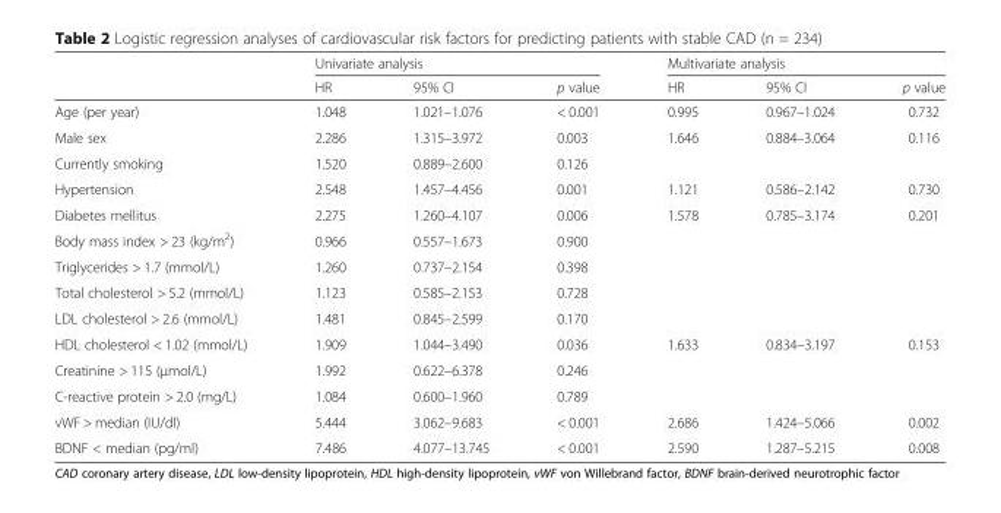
<table><thead><tr><td rowspan="2"></td><td colspan="3">Univariate analysis</td><td colspan="3">Multivariate analysis</td></tr><tr><td>HR</td><td>95% CI</td><td>p value</td><td>HR</td><td>95% CI</td><td>p value</td></tr></thead><tbody><tr><td>Age (per year)</td><td>1.048</td><td>1.021–1.076</td><td>&lt; 0.001</td><td>0.995</td><td>0.967–1.024</td><td>0.732</td></tr><tr><td>Male sex</td><td>2.286</td><td>1.315–3.972</td><td>0.003</td><td>1.646</td><td>0.884–3.064</td><td>0.116</td></tr><tr><td>Currently smoking</td><td>1.520</td><td>0.889–2.600</td><td>0.126</td><td></td><td></td><td></td></tr><tr><td>Hypertension</td><td>2.548</td><td>1.457–4.456</td><td>0.001</td><td>1.121</td><td>0.586–2.142</td><td>0.730</td></tr><tr><td>Diabetes mellitus</td><td>2.275</td><td>1.260–4.107</td><td>0.006</td><td>1.578</td><td>0.785–3.174</td><td>0.201</td></tr><tr><td>Body mass index &gt; 23 (kg/m<sup>2</sup>)</td><td>0.966</td><td>0.557–1.673</td><td>0.900</td><td></td><td></td><td></td></tr><tr><td>Triglycerides &gt; 1.7 (mmol/L)</td><td>1.260</td><td>0.737–2.154</td><td>0.398</td><td></td><td></td><td></td></tr><tr><td>Total cholesterol &gt; 5.2 (mmol/L)</td><td>1.123</td><td>0.585–2.153</td><td>0.728</td><td></td><td></td><td></td></tr><tr><td>LDL cholesterol &gt; 2.6 (mmol/L)</td><td>1.481</td><td>0.845–2.599</td><td>0.170</td><td></td><td></td><td></td></tr><tr><td>HDL cholesterol &lt; 1.02 (mmol/L)</td><td>1.909</td><td>1.044–3.490</td><td>0.036</td><td>1.633</td><td>0.834–3.197</td><td>0.153</td></tr><tr><td>Creatinine &gt; 115 (μmol/L)</td><td>1.992</td><td>0.622–6.378</td><td>0.246</td><td></td><td></td><td></td></tr><tr><td>C-reactive protein &gt; 2.0 (mg/L)</td><td>1.084</td><td>0.600–1.960</td><td>0.789</td><td></td><td></td><td></td></tr><tr><td>vWF &gt; median (IU/dl)</td><td>5.444</td><td>3.062–9.683</td><td>&lt; 0.001</td><td>2.686</td><td>1.424–5.066</td><td>0.002</td></tr><tr><td>BDNF &lt; median (pg/ml)</td><td>7.486</td><td>4.077–13.745</td><td>&lt; 0.001</td><td>2.590</td><td>1.287–5.215</td><td>0.008</td></tr></tbody></table>